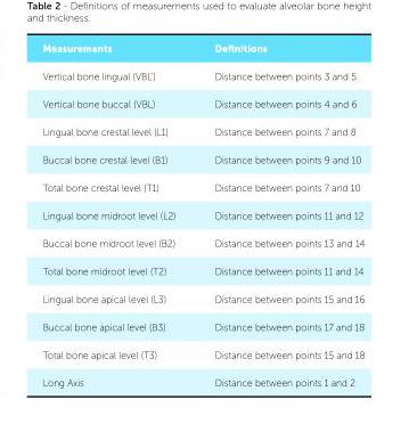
<table><tbody><tr><td>Measurements</td><td>Definitions</td></tr><tr><td>Vertical bone lingual (VBL’)</td><td>Distance between points 3 and 5</td></tr><tr><td>Vertical bone buccal (VBL)</td><td>Distance between points 4 and 6</td></tr><tr><td>Lingual bone crestal level (L1)</td><td>Distance between points 7 and 8</td></tr><tr><td>Buccal bone crestal level (B1)</td><td>Distance between points 9 and 10</td></tr><tr><td>Total bone crestal level (T1)</td><td>Distance between points 7 and 10</td></tr><tr><td>Lingual bone midroot level (L2)</td><td>Distance between points 11 and 12</td></tr><tr><td>Buccal bone midroot level (B2)</td><td>Distance between points 13 and 14</td></tr><tr><td>Total bone midroot level (T2)</td><td>Distance between points 11 and 14</td></tr><tr><td>Lingual bone apical level (L3)</td><td>Distance between points 15 and 16</td></tr><tr><td>Buccal bone apical level (B3)</td><td>Distance between points 17 and 18</td></tr><tr><td>Total bone apical level (T3)</td><td>Distance between points 15 and 18</td></tr><tr><td>Long Axis</td><td>Distance between points 1 and 2</td></tr></tbody></table>